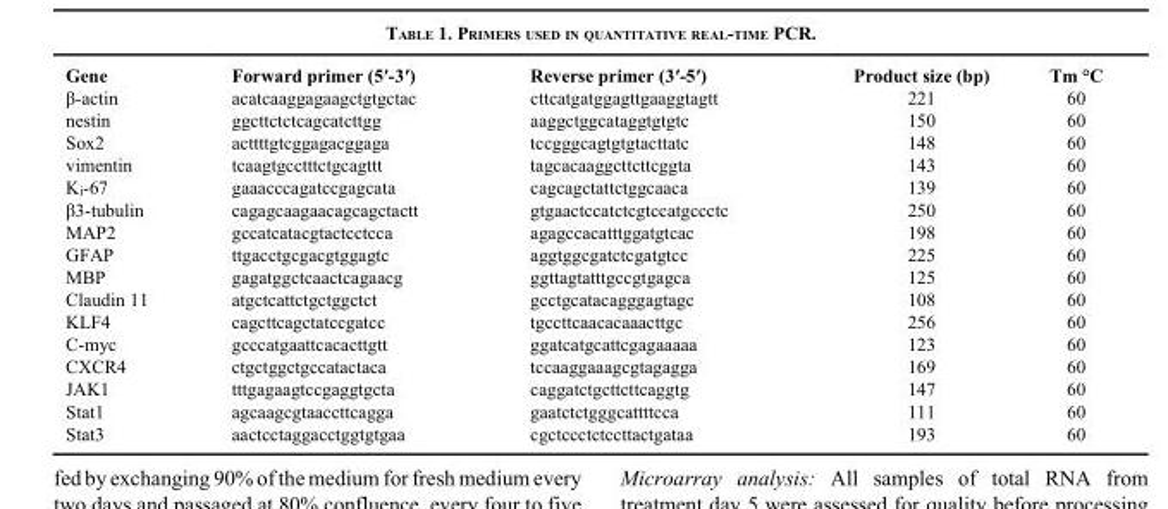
<table><thead><tr><td>Gene</td><td>Forward primer (5′-3′)</td><td>Reverse primer (3′-5′)</td><td>Product size (bp)</td><td>Tm °C</td></tr></thead><tbody><tr><td>β-actin</td><td>acatcaaggagaagctgtgctac</td><td>cttcatgatggagttgaaggtagtt</td><td>221</td><td>60</td></tr><tr><td>nestin</td><td>ggcttctctcagcatcttgg</td><td>aaggctggcataggtgtgtc</td><td>150</td><td>60</td></tr><tr><td>Sox2</td><td>acttttgtcggagacggaga</td><td>tccgggcagtgtgtacttatc</td><td>148</td><td>60</td></tr><tr><td>vimentin</td><td>tcaagtgcctttctgcagttt</td><td>tagcacaaggcttcttcggta</td><td>143</td><td>60</td></tr><tr><td>K<sub>i</sub>-67</td><td>gaaacccagatccgagcata</td><td>cagcagctattctggcaaca</td><td>139</td><td>60</td></tr><tr><td>β3-tubulin</td><td>cagagcaagaacagcagctactt</td><td>gtgaactccatctcgtccatgccctc</td><td>250</td><td>60</td></tr><tr><td>MAP2</td><td>gccatcatacgtactcctcca</td><td>agagccacatttggatgtcac</td><td>198</td><td>60</td></tr><tr><td>GFAP</td><td>ttgacctgcgacgtggagtc</td><td>aggtggcgatctcgatgtcc</td><td>225</td><td>60</td></tr><tr><td>MBP</td><td>gagatggctcaactcagaacg</td><td>ggttagtatttgccgtgagca</td><td>125</td><td>60</td></tr><tr><td>Claudin 11</td><td>atgctcattctgctggctct</td><td>gcctgcatacagggagtagc</td><td>108</td><td>60</td></tr><tr><td>KLF4</td><td>cagcttcagctatccgatcc</td><td>tgccttcaacacaaacttgc</td><td>256</td><td>60</td></tr><tr><td>C-myc</td><td>gcccatgaattcacacttgtt</td><td>ggatcatgcattcgagaaaaa</td><td>123</td><td>60</td></tr><tr><td>CXCR4</td><td>ctgctggctgccatactaca</td><td>tccaaggaaagcgtagagga</td><td>169</td><td>60</td></tr><tr><td>JAK1</td><td>tttgagaagtccgaggtgcta</td><td>caggatctgcttcttcaggtg</td><td>147</td><td>60</td></tr><tr><td>Stat1</td><td>agcaagcgtaaccttcagga</td><td>gaatctctgggcattttcca</td><td>111</td><td>60</td></tr><tr><td>Stat3</td><td>aactcctaggacctggtgtgaa</td><td>cgctccctctccttactgataa</td><td>193</td><td>60</td></tr></tbody></table>